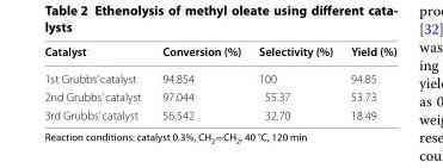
<table><thead><tr><td>Catalyst</td><td>Conversion (%)</td><td>Selectivity (%)</td><td>Yield (%)</td></tr></thead><tbody><tr><td>1st Grubbs’ catalyst</td><td>94.854</td><td>100</td><td>94.85</td></tr><tr><td>2nd Grubbs’ catalyst</td><td>97.044</td><td>55.37</td><td>53.73</td></tr><tr><td>3rd Grubbs’ catalyst</td><td>56.542</td><td>32.70</td><td>18.49</td></tr></tbody></table>